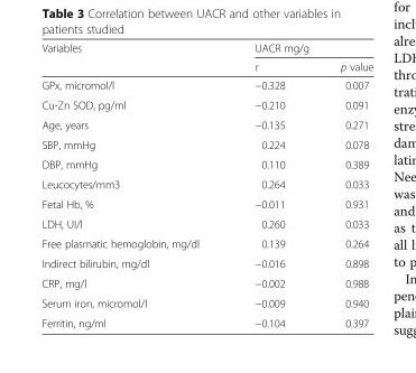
<table><thead><tr><td rowspan="2">Variables</td><td colspan="2">UACR mg/g</td></tr><tr><td>r</td><td>p value</td></tr></thead><tbody><tr><td>GPx, micromol/l</td><td>−0.328</td><td>0.007</td></tr><tr><td>Cu-Zn SOD, pg/ml</td><td>−0.210</td><td>0.091</td></tr><tr><td>Age, years</td><td>−0.135</td><td>0.271</td></tr><tr><td>SBP, mmHg</td><td>0.224</td><td>0.078</td></tr><tr><td>DBP, mmHg</td><td>0.110</td><td>0.389</td></tr><tr><td>Leucocytes/mm3</td><td>0.264</td><td>0.033</td></tr><tr><td>Fetal Hb, %</td><td>−0.011</td><td>0.931</td></tr><tr><td>LDH, UI/l</td><td>0.260</td><td>0.033</td></tr><tr><td>Free plasmatic hemoglobin, mg/dl</td><td>0.139</td><td>0.264</td></tr><tr><td>Indirect bilirubin, mg/dl</td><td>−0.016</td><td>0.898</td></tr><tr><td>CRP, mg/l</td><td>−0.002</td><td>0.988</td></tr><tr><td>Serum iron, micromol/l</td><td>−0.009</td><td>0.940</td></tr><tr><td>Ferritin, ng/ml</td><td>−0.104</td><td>0.397</td></tr></tbody></table>